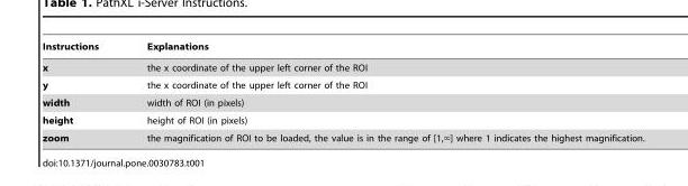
<table><thead><tr><td>Instructions</td><td>Explanations</td></tr></thead><tbody><tr><td>x</td><td>the x coordinate of the upper left corner of the ROI</td></tr><tr><td>y</td><td>the x coordinate of the upper left corner of the ROI</td></tr><tr><td>width</td><td>width of ROI (in pixels)</td></tr><tr><td>height</td><td>height of ROI (in pixels)</td></tr><tr><td>zoom</td><td>the magnification of ROI to be loaded, the value is in the range of [1,‘] where 1 indicates the highest magnification.</td></tr></tbody></table>